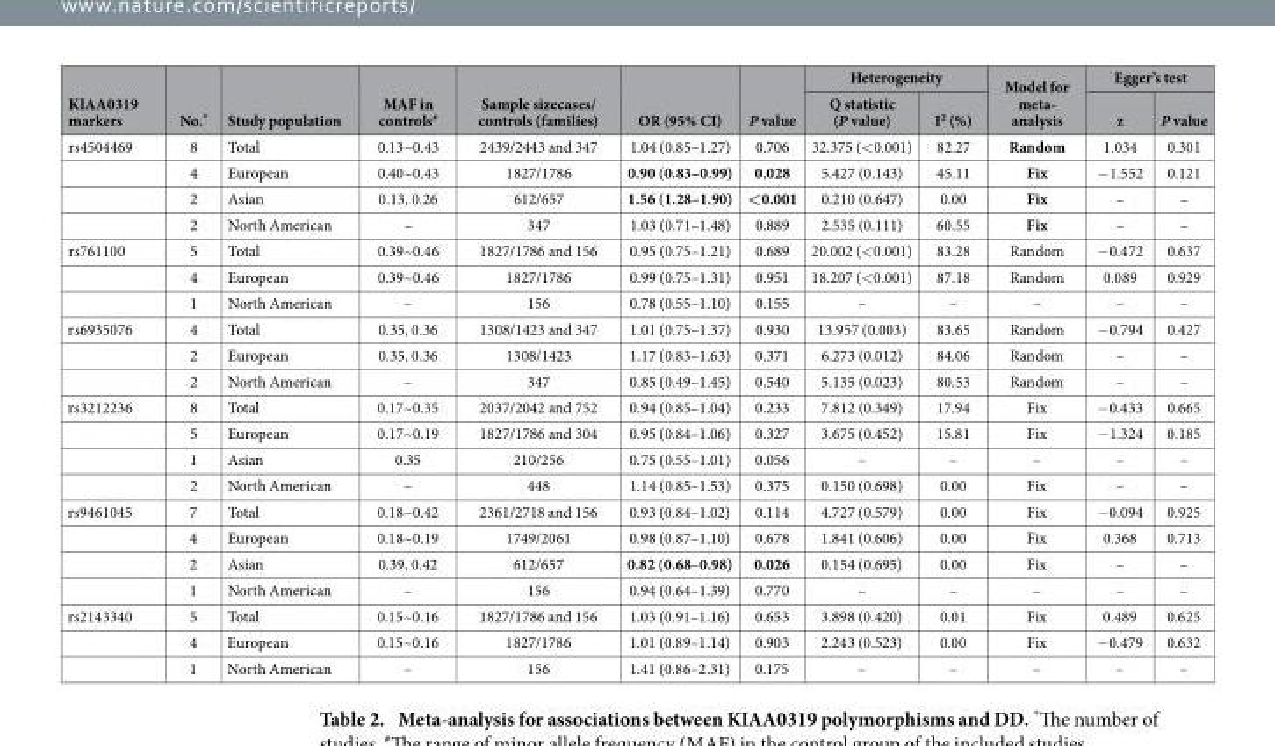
<table><thead><tr><td rowspan="2">KIAA0319 markers</td><td rowspan="2">No.*</td><td rowspan="2">Study population</td><td rowspan="2">MAF in controls<sup>#</sup></td><td rowspan="2">Sample sizecases/ controls (families)</td><td rowspan="2">OR (95% CI)</td><td rowspan="2">P value</td><td colspan="2">Heterogeneity</td><td rowspan="2">Model for meta- analysis</td><td colspan="2">Egger’s test</td></tr><tr><td>Q statistic (P value)</td><td>I<sup>2</sup> (%)</td><td>z</td><td>P value</td></tr></thead><tbody><tr><td rowspan="4">rs4504469</td><td>8</td><td>Total</td><td>0.13~0.43</td><td>2439/2443 and 347</td><td>1.04 (0.85–1.27)</td><td>0.706</td><td>32.375 (&lt; 0.001)</td><td>82.27</td><td>Random</td><td>1.034</td><td>0.301</td></tr><tr><td>4</td><td>European</td><td>0.40~0.43</td><td>1827/1786</td><td>0.90 (0.83–0.99)</td><td>0.028</td><td>5.427 (0.143)</td><td>45.11</td><td>Fix</td><td>− 1.552</td><td>0.121</td></tr><tr><td>2</td><td>Asian</td><td>0.13, 0.26</td><td>612/657</td><td>1.56 (1.28–1.90)</td><td>&lt;0.001</td><td>0.210 (0.647)</td><td>0.00</td><td>Fix</td><td>–</td><td>–</td></tr><tr><td>2</td><td>North American</td><td>–</td><td>347</td><td>1.03 (0.71–1.48)</td><td>0.889</td><td>2.535 (0.111)</td><td>60.55</td><td>Fix</td><td>–</td><td>–</td></tr><tr><td rowspan="3">rs761100</td><td>5</td><td>Total</td><td>0.39~0.46</td><td>1827/1786 and 156</td><td>0.95 (0.75–1.21)</td><td>0.689</td><td>20.002 (&lt; 0.001)</td><td>83.28</td><td>Random</td><td>− 0.472</td><td>0.637</td></tr><tr><td>4</td><td>European</td><td>0.39~0.46</td><td>1827/1786</td><td>0.99 (0.75–1.31)</td><td>0.951</td><td>18.207 (&lt; 0.001)</td><td>87.18</td><td>Random</td><td>0.089</td><td>0.929</td></tr><tr><td>1</td><td>North American</td><td>–</td><td>156</td><td>0.78 (0.55–1.10)</td><td>0.155</td><td>–</td><td>–</td><td>–</td><td>–</td><td>–</td></tr><tr><td rowspan="3">rs6935076</td><td>4</td><td>Total</td><td>0.35, 0.36</td><td>1308/1423 and 347</td><td>1.01 (0.75–1.37)</td><td>0.930</td><td>13.957 (0.003)</td><td>83.65</td><td>Random</td><td>− 0.794</td><td>0.427</td></tr><tr><td>2</td><td>European</td><td>0.35, 0.36</td><td>1308/1423</td><td>1.17 (0.83–1.63)</td><td>0.371</td><td>6.273 (0.012)</td><td>84.06</td><td>Random</td><td>–</td><td>–</td></tr><tr><td>2</td><td>North American</td><td>–</td><td>347</td><td>0.85 (0.49–1.45)</td><td>0.540</td><td>5.135 (0.023)</td><td>80.53</td><td>Random</td><td>–</td><td>–</td></tr><tr><td rowspan="4">rs3212236</td><td>8</td><td>Total</td><td>0.17~0.35</td><td>2037/2042 and 752</td><td>0.94 (0.85–1.04)</td><td>0.233</td><td>7.812 (0.349)</td><td>17.94</td><td>Fix</td><td>− 0.433</td><td>0.665</td></tr><tr><td>5</td><td>European</td><td>0.17~0.19</td><td>1827/1786 and 304</td><td>0.95 (0.84–1.06)</td><td>0.327</td><td>3.675 (0.452)</td><td>15.81</td><td>Fix</td><td>− 1.324</td><td>0.185</td></tr><tr><td>1</td><td>Asian</td><td>0.35</td><td>210/256</td><td>0.75 (0.55–1.01)</td><td>0.056</td><td>–</td><td>–</td><td>–</td><td>–</td><td>–</td></tr><tr><td>2</td><td>North American</td><td>–</td><td>448</td><td>1.14 (0.85–1.53)</td><td>0.375</td><td>0.150 (0.698)</td><td>0.00</td><td>Fix</td><td>–</td><td>–</td></tr><tr><td rowspan="4">rs9461045</td><td>7</td><td>Total</td><td>0.18~0.42</td><td>2361/2718 and 156</td><td>0.93 (0.84–1.02)</td><td>0.114</td><td>4.727 (0.579)</td><td>0.00</td><td>Fix</td><td>− 0.094</td><td>0.925</td></tr><tr><td>4</td><td>European</td><td>0.18~0.19</td><td>1749/2061</td><td>0.98 (0.87–1.10)</td><td>0.678</td><td>1.841 (0.606)</td><td>0.00</td><td>Fix</td><td>0.368</td><td>0.713</td></tr><tr><td>2</td><td>Asian</td><td>0.39, 0.42</td><td>612/657</td><td>0.82 (0.68–0.98)</td><td>0.026</td><td>0.154 (0.695)</td><td>0.00</td><td>Fix</td><td>–</td><td>–</td></tr><tr><td>1</td><td>North American</td><td>–</td><td>156</td><td>0.94 (0.64–1.39)</td><td>0.770</td><td>–</td><td>–</td><td>–</td><td>–</td><td>–</td></tr><tr><td rowspan="3">rs2143340</td><td>5</td><td>Total</td><td>0.15~0.16</td><td>1827/1786 and 156</td><td>1.03 (0.91–1.16)</td><td>0.653</td><td>3.898 (0.420)</td><td>0.01</td><td>Fix</td><td>0.489</td><td>0.625</td></tr><tr><td>4</td><td>European</td><td>0.15~0.16</td><td>1827/1786</td><td>1.01 (0.89–1.14)</td><td>0.903</td><td>2.243 (0.523)</td><td>0.00</td><td>Fix</td><td>− 0.479</td><td>0.632</td></tr><tr><td>1</td><td>North American</td><td>–</td><td>156</td><td>1.41 (0.86–2.31)</td><td>0.175</td><td>–</td><td>–</td><td>–</td><td>–</td><td>–</td></tr></tbody></table>